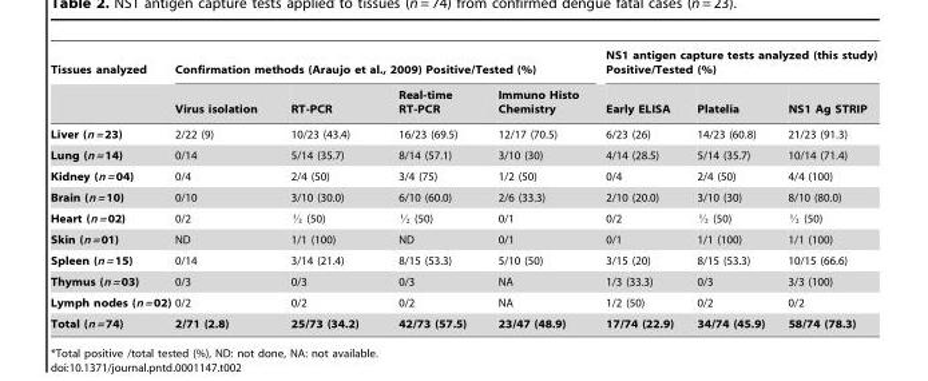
<table><thead><tr><td rowspan="2">Tissues analyzed</td><td colspan="4">Confirmation methods (Araujo et al., 2009) Positive/Tested (%)</td><td colspan="3">NS1 antigen capture tests analyzed (this study) Positive/Tested (%)</td></tr><tr><td>Virus isolation</td><td>RT-PCR</td><td>Real-time RT-PCR</td><td>Immuno Histo Chemistry</td><td>Early ELISA</td><td>Platelia</td><td>NS1 Ag STRIP</td></tr></thead><tbody><tr><td>Liver (n = 23)</td><td>2/22 (9)</td><td>10/23 (43.4)</td><td>16/23 (69.5)</td><td>12/17 (70.5)</td><td>6/23 (26)</td><td>14/23 (60.8)</td><td>21/23 (91.3)</td></tr><tr><td>Lung (n = 14)</td><td>0/14</td><td>5/14 (35.7)</td><td>8/14 (57.1)</td><td>3/10 (30)</td><td>4/14 (28.5)</td><td>5/14 (35.7)</td><td>10/14 (71.4)</td></tr><tr><td>Kidney (n = 04)</td><td>0/4</td><td>2/4 (50)</td><td>3/4 (75)</td><td>1/2 (50)</td><td>0/4</td><td>2/4 (50)</td><td>4/4 (100)</td></tr><tr><td>Brain (n = 10)</td><td>0/10</td><td>3/10 (30.0)</td><td>6/10 (60.0)</td><td>2/6 (33.3)</td><td>2/10 (20.0)</td><td>3/10 (30)</td><td>8/10 (80.0)</td></tr><tr><td>Heart (n = 02)</td><td>0/2</td><td>K (50)</td><td>K (50)</td><td>0/1</td><td>0/2</td><td>K (50)</td><td>K (50)</td></tr><tr><td>Skin (n = 01)</td><td>ND</td><td>1/1 (100)</td><td>ND</td><td>0/1</td><td>0/1</td><td>1/1 (100)</td><td>1/1 (100)</td></tr><tr><td>Spleen (n = 15)</td><td>0/14</td><td>3/14 (21.4)</td><td>8/15 (53.3)</td><td>5/10 (50)</td><td>3/15 (20)</td><td>8/15 (53.3)</td><td>10/15 (66.6)</td></tr><tr><td>Thymus (n = 03)</td><td>0/3</td><td>0/3</td><td>0/3</td><td>NA</td><td>1/3 (33.3)</td><td>0/3</td><td>3/3 (100)</td></tr><tr><td>Lymph nodes (n = 02)</td><td>0/2</td><td>0/2</td><td>0/2</td><td>NA</td><td>1/2 (50)</td><td>0/2</td><td>0/2</td></tr><tr><td>Total (n = 74)</td><td>2/71 (2.8)</td><td>25/73 (34.2)</td><td>42/73 (57.5)</td><td>23/47 (48.9)</td><td>17/74 (22.9)</td><td>34/74 (45.9)</td><td>58/74 (78.3)</td></tr></tbody></table>